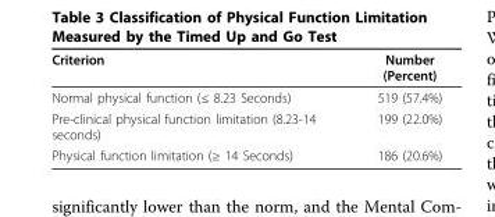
<table><thead><tr><td>Criterion</td><td>Number (Percent)</td></tr></thead><tbody><tr><td>Normal physical function (≤ 8.23 Seconds)</td><td>519 (57.4%)</td></tr><tr><td>Pre-clinical physical function limitation (8.23-14 seconds)</td><td>199 (22.0%)</td></tr><tr><td>Physical function limitation (≥ 14 Seconds)</td><td>186 (20.6%)</td></tr></tbody></table>